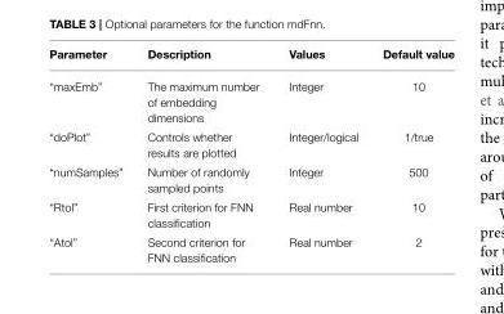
<table><thead><tr><td>Parameter</td><td>Description</td><td>Values</td><td>Default value</td></tr></thead><tbody><tr><td>“maxEmb”</td><td>The maximum number of embedding dimensions</td><td>Integer</td><td>10</td></tr><tr><td>“doPlot”</td><td>Controls whether results are plotted</td><td>Integer/logical</td><td>1/true</td></tr><tr><td>“numSamples”</td><td>Number of randomly sampled points</td><td>Integer</td><td>500</td></tr><tr><td>“Rtol”</td><td>First criterion for FNN classification</td><td>Real number</td><td>10</td></tr><tr><td>“Atol”</td><td>Second criterion for FNN classification</td><td>Real number</td><td>2</td></tr></tbody></table>